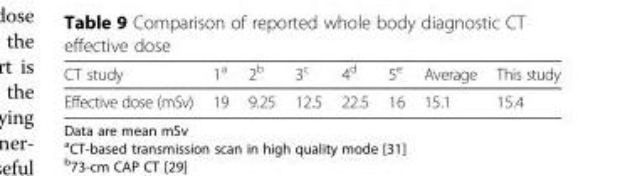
<table><thead><tr><td>CT study</td><td>1<sup>a</sup></td><td>2<sup>b</sup></td><td>3<sup>c</sup></td><td>4<sup>d</sup></td><td>5<sup>e</sup></td><td>Average</td><td>This study</td></tr></thead><tbody><tr><td>Effective dose (mSv)</td><td>19</td><td>9.25</td><td>12.5</td><td>22.5</td><td>16</td><td>15.1</td><td>15.4</td></tr></tbody></table>